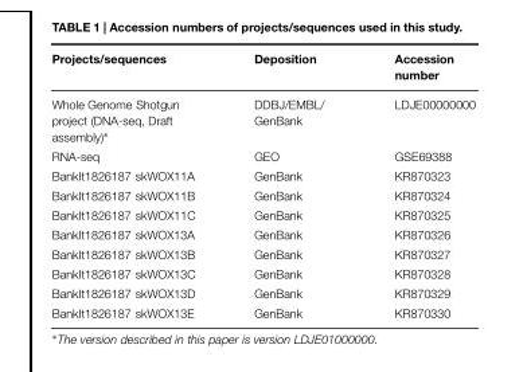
<table><thead><tr><td>Projects/sequences</td><td>Deposition</td><td>Accession number</td></tr></thead><tbody><tr><td>Whole Genome Shotgun project (DNA-seq, Draft assembly)∗</td><td>DDBJ/EMBL/ GenBank</td><td>LDJE00000000</td></tr><tr><td>RNA-seq</td><td>GEO</td><td>GSE69388</td></tr><tr><td>BankIt1826187 skWOX11A</td><td>GenBank</td><td>KR870323</td></tr><tr><td>BankIt1826187 skWOX11B</td><td>GenBank</td><td>KR870324</td></tr><tr><td>BankIt1826187 skWOX11C</td><td>GenBank</td><td>KR870325</td></tr><tr><td>BankIt1826187 skWOX13A</td><td>GenBank</td><td>KR870326</td></tr><tr><td>BankIt1826187 skWOX13B</td><td>GenBank</td><td>KR870327</td></tr><tr><td>BankIt1826187 skWOX13C</td><td>GenBank</td><td>KR870328</td></tr><tr><td>BankIt1826187 skWOX13D</td><td>GenBank</td><td>KR870329</td></tr><tr><td>BankIt1826187 skWOX13E</td><td>GenBank</td><td>KR870330</td></tr></tbody></table>